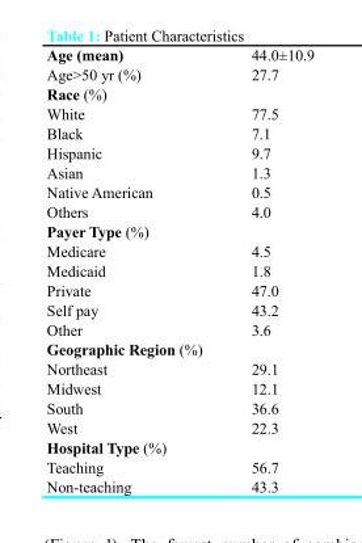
<table><tbody><tr><td>Age (mean)</td><td>44.0±10.9</td></tr><tr><td>Age&gt;50 yr (%)</td><td>27.7</td></tr><tr><td colspan="2">Race (%)</td></tr><tr><td>White</td><td>77.5</td></tr><tr><td>Black</td><td>7.1</td></tr><tr><td>Hispanic</td><td>9.7</td></tr><tr><td>Asian</td><td>1.3</td></tr><tr><td>Native American</td><td>0.5</td></tr><tr><td>Others</td><td>4.0</td></tr><tr><td colspan="2">Payer Type (%)</td></tr><tr><td>Medicare</td><td>4.5</td></tr><tr><td>Medicaid</td><td>1.8</td></tr><tr><td>Private</td><td>47.0</td></tr><tr><td>Self pay</td><td>43.2</td></tr><tr><td>Other</td><td>3.6</td></tr><tr><td colspan="2">Geographic Region (%)</td></tr><tr><td>Northeast</td><td>29.1</td></tr><tr><td>Midwest</td><td>12.1</td></tr><tr><td>South</td><td>36.6</td></tr><tr><td>West</td><td>22.3</td></tr><tr><td colspan="2">Hospital Type (%)</td></tr><tr><td>Teaching</td><td>56.7</td></tr><tr><td>Non-teaching</td><td>43.3</td></tr></tbody></table>